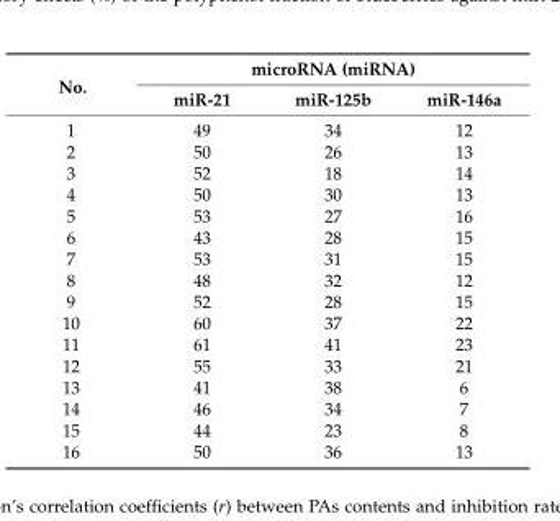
<table><thead><tr><td rowspan="2">No.</td><td colspan="3">microRNA (miRNA)</td></tr><tr><td>miR-21</td><td>miR-125b</td><td>miR-146a</td></tr></thead><tbody><tr><td>1</td><td>49</td><td>34</td><td>12</td></tr><tr><td>2</td><td>50</td><td>26</td><td>13</td></tr><tr><td>3</td><td>52</td><td>18</td><td>14</td></tr><tr><td>4</td><td>50</td><td>30</td><td>13</td></tr><tr><td>5</td><td>53</td><td>27</td><td>16</td></tr><tr><td>6</td><td>43</td><td>28</td><td>15</td></tr><tr><td>7</td><td>53</td><td>31</td><td>15</td></tr><tr><td>8</td><td>48</td><td>32</td><td>12</td></tr><tr><td>9</td><td>52</td><td>28</td><td>15</td></tr><tr><td>10</td><td>60</td><td>37</td><td>22</td></tr><tr><td>11</td><td>61</td><td>41</td><td>23</td></tr><tr><td>12</td><td>55</td><td>33</td><td>21</td></tr><tr><td>13</td><td>41</td><td>38</td><td>6</td></tr><tr><td>14</td><td>46</td><td>34</td><td>7</td></tr><tr><td>15</td><td>44</td><td>23</td><td>8</td></tr><tr><td>16</td><td>50</td><td>36</td><td>13</td></tr></tbody></table>